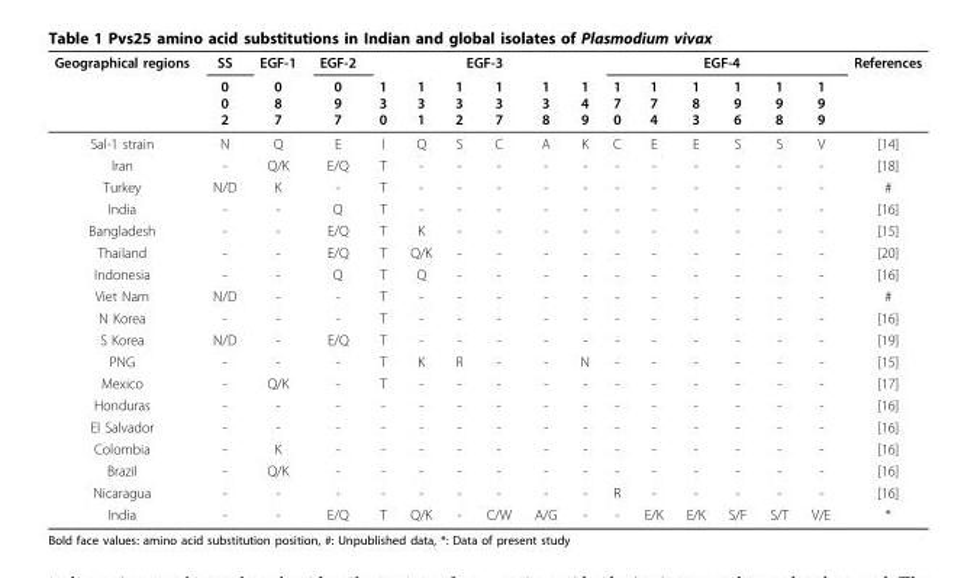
<table><thead><tr><td rowspan="2">Geographical regions</td><td rowspan="2">SS 0 0 2</td><td rowspan="2">EGF-1 0 8 7</td><td rowspan="2">EGF-2 0 9 7</td><td colspan="6">EGF-3</td><td colspan="6">EGF-4</td><td rowspan="2">References</td></tr><tr><td>1 3 0</td><td>1 3 1</td><td>1 3 2</td><td>1 3 7</td><td>1 3 8</td><td>1 4 9</td><td>1 7 0</td><td>1 7 4</td><td>1 8 3</td><td>1 9 6</td><td>1 9 8</td><td>1 9 9</td></tr></thead><tbody><tr><td>Sal-1 strain</td><td>N</td><td>Q</td><td>E</td><td>I</td><td>Q</td><td>S</td><td>C</td><td>A</td><td>K</td><td>C</td><td>E</td><td>E</td><td>S</td><td>S</td><td>V</td><td>[14]</td></tr><tr><td>Iran</td><td>-</td><td>Q/K</td><td>E/Q</td><td>T</td><td>-</td><td>-</td><td>-</td><td>-</td><td>-</td><td>-</td><td>-</td><td>-</td><td>-</td><td>-</td><td>-</td><td>[18]</td></tr><tr><td>Turkey</td><td>N/D</td><td>K</td><td>-</td><td>T</td><td>-</td><td>-</td><td>-</td><td>-</td><td>-</td><td>-</td><td>-</td><td>-</td><td>-</td><td>-</td><td>-</td><td>#</td></tr><tr><td>India</td><td>-</td><td>-</td><td>Q</td><td>T</td><td>-</td><td>-</td><td>-</td><td>-</td><td>-</td><td>-</td><td>-</td><td>-</td><td>-</td><td>-</td><td>-</td><td>[16]</td></tr><tr><td>Bangladesh</td><td>-</td><td>-</td><td>E/Q</td><td>T</td><td>K</td><td>-</td><td>-</td><td>-</td><td>-</td><td>-</td><td>-</td><td>-</td><td>-</td><td>-</td><td>-</td><td>[15]</td></tr><tr><td>Thailand</td><td>-</td><td>-</td><td>E/Q</td><td>T</td><td>Q/K</td><td>-</td><td>-</td><td>-</td><td>-</td><td>-</td><td>-</td><td>-</td><td>-</td><td>-</td><td>-</td><td>[20]</td></tr><tr><td>Indonesia</td><td>-</td><td>-</td><td>Q</td><td>T</td><td>Q</td><td>-</td><td>-</td><td>-</td><td>-</td><td>-</td><td>-</td><td>-</td><td>-</td><td>-</td><td>-</td><td>[16]</td></tr><tr><td>Viet Nam</td><td>N/D</td><td>-</td><td>-</td><td>T</td><td>-</td><td>-</td><td>-</td><td>-</td><td>-</td><td>-</td><td>-</td><td>-</td><td>-</td><td>-</td><td>-</td><td>#</td></tr><tr><td>N Korea</td><td>-</td><td>-</td><td>-</td><td>T</td><td>-</td><td>-</td><td>-</td><td>-</td><td>-</td><td>-</td><td>-</td><td>-</td><td>-</td><td>-</td><td>-</td><td>[16]</td></tr><tr><td>S Korea</td><td>N/D</td><td>-</td><td>E/Q</td><td>T</td><td>-</td><td>-</td><td>-</td><td>-</td><td>-</td><td>-</td><td>-</td><td>-</td><td>-</td><td>-</td><td>-</td><td>[19]</td></tr><tr><td>PNG</td><td>-</td><td>-</td><td>-</td><td>T</td><td>K</td><td>R</td><td>-</td><td>-</td><td>N</td><td>-</td><td>-</td><td>-</td><td>-</td><td>-</td><td>-</td><td>[15]</td></tr><tr><td>Mexico</td><td>-</td><td>Q/K</td><td>-</td><td>T</td><td>-</td><td>-</td><td>-</td><td>-</td><td>-</td><td>-</td><td>-</td><td>-</td><td>-</td><td>-</td><td>-</td><td>[17]</td></tr><tr><td>Honduras</td><td>-</td><td>-</td><td>-</td><td>-</td><td>-</td><td>-</td><td>-</td><td>-</td><td>-</td><td>-</td><td>-</td><td>-</td><td>-</td><td>-</td><td>-</td><td>[16]</td></tr><tr><td>El Salvador</td><td>-</td><td>-</td><td>-</td><td>-</td><td>-</td><td>-</td><td>-</td><td>-</td><td>-</td><td>-</td><td>-</td><td>-</td><td>-</td><td>-</td><td>-</td><td>[16]</td></tr><tr><td>Colombia</td><td>-</td><td>K</td><td>-</td><td>-</td><td>-</td><td>-</td><td>-</td><td>-</td><td>-</td><td>-</td><td>-</td><td>-</td><td>-</td><td>-</td><td>-</td><td>[16]</td></tr><tr><td>Brazil</td><td>-</td><td>Q/K</td><td>-</td><td>-</td><td>-</td><td>-</td><td>-</td><td>-</td><td>-</td><td>-</td><td>-</td><td>-</td><td>-</td><td>-</td><td>-</td><td>[16]</td></tr><tr><td>Nicaragua</td><td>-</td><td>-</td><td>-</td><td>-</td><td>-</td><td>-</td><td>-</td><td>-</td><td>-</td><td>R</td><td>-</td><td>-</td><td>-</td><td>-</td><td>-</td><td>[16]</td></tr><tr><td>India</td><td>-</td><td>-</td><td>E/Q</td><td>T</td><td>Q/K</td><td>-</td><td>C/W</td><td>A/G</td><td>-</td><td>-</td><td>E/K</td><td>E/K</td><td>S/F</td><td>S/T</td><td>V/E</td><td>*</td></tr></tbody></table>